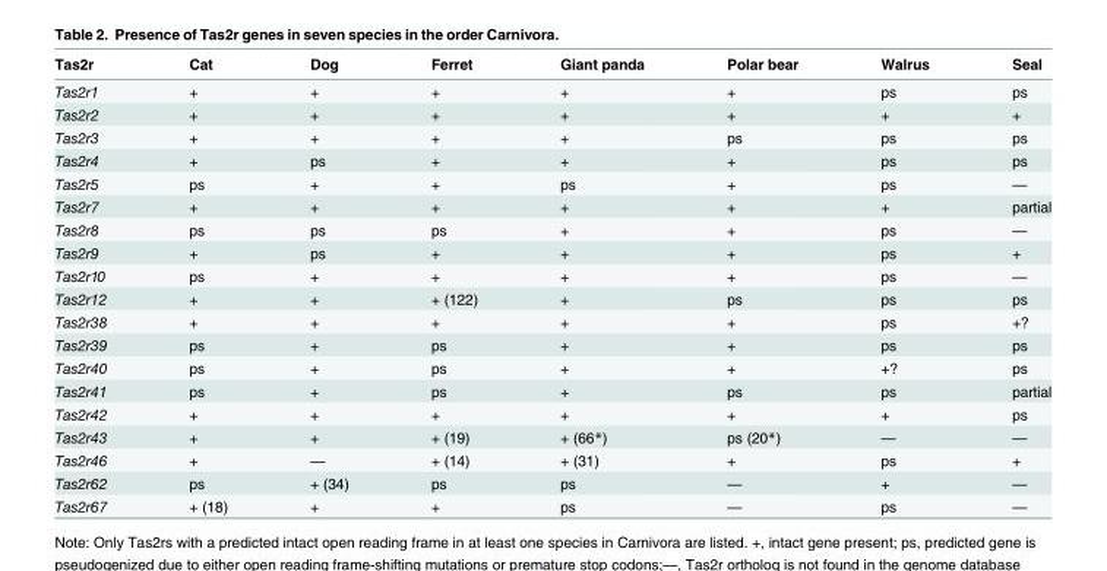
<table><thead><tr><td>Tas2r</td><td>Cat</td><td>Dog</td><td>Ferret</td><td>Giant panda</td><td>Polar bear</td><td>Walrus</td><td>Seal</td></tr></thead><tbody><tr><td>Tas2r1</td><td>+</td><td>+</td><td>+</td><td>+</td><td>+</td><td>ps</td><td>ps</td></tr><tr><td>Tas2r2</td><td>+</td><td>+</td><td>+</td><td>+</td><td>+</td><td>+</td><td>+</td></tr><tr><td>Tas2r3</td><td>+</td><td>+</td><td>+</td><td>+</td><td>ps</td><td>ps</td><td>ps</td></tr><tr><td>Tas2r4</td><td>+</td><td>ps</td><td>+</td><td>+</td><td>+</td><td>ps</td><td>ps</td></tr><tr><td>Tas2r5</td><td>ps</td><td>+</td><td>+</td><td>ps</td><td>+</td><td>ps</td><td>—</td></tr><tr><td>Tas2r7</td><td>+</td><td>+</td><td>+</td><td>+</td><td>+</td><td>+</td><td>partial</td></tr><tr><td>Tas2r8</td><td>ps</td><td>ps</td><td>ps</td><td>+</td><td>+</td><td>ps</td><td>—</td></tr><tr><td>Tas2r9</td><td>+</td><td>ps</td><td>+</td><td>+</td><td>+</td><td>ps</td><td>+</td></tr><tr><td>Tas2r10</td><td>ps</td><td>+</td><td>+</td><td>+</td><td>+</td><td>ps</td><td>—</td></tr><tr><td>Tas2r12</td><td>+</td><td>+</td><td>+ (122)</td><td>+</td><td>ps</td><td>ps</td><td>ps</td></tr><tr><td>Tas2r38</td><td>+</td><td>+</td><td>+</td><td>+</td><td>+</td><td>ps</td><td>+?</td></tr><tr><td>Tas2r39</td><td>ps</td><td>+</td><td>ps</td><td>+</td><td>+</td><td>ps</td><td>ps</td></tr><tr><td>Tas2r40</td><td>ps</td><td>+</td><td>ps</td><td>+</td><td>+</td><td>+?</td><td>ps</td></tr><tr><td>Tas2r41</td><td>ps</td><td>+</td><td>ps</td><td>+</td><td>ps</td><td>ps</td><td>partial</td></tr><tr><td>Tas2r42</td><td>+</td><td>+</td><td>+</td><td>+</td><td>+</td><td>+</td><td>ps</td></tr><tr><td>Tas2r43</td><td>+</td><td>+</td><td>+ (19)</td><td>+ (66*)</td><td>ps (20*)</td><td>—</td><td>—</td></tr><tr><td>Tas2r46</td><td>+</td><td>—</td><td>+ (14)</td><td>+ (31)</td><td>+</td><td>ps</td><td>+</td></tr><tr><td>Tas2r62</td><td>ps</td><td>+ (34)</td><td>ps</td><td>ps</td><td>—</td><td>+</td><td>—</td></tr><tr><td>Tas2r67</td><td>+ (18)</td><td>+</td><td>+</td><td>ps</td><td>—</td><td>ps</td><td>—</td></tr></tbody></table>